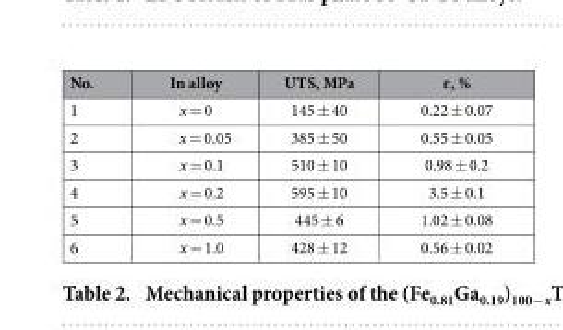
<table><thead><tr><td>No.</td><td>In alloy</td><td>UTS, MPa</td><td>ɛ, %</td></tr></thead><tbody><tr><td>1</td><td>x = 0</td><td>145 ± 40</td><td>0.22 ± 0.07</td></tr><tr><td>2</td><td>x = 0.05</td><td>385 ± 50</td><td>0.55 ± 0.05</td></tr><tr><td>3</td><td>x = 0.1</td><td>510 ± 10</td><td>0.98 ± 0.2</td></tr><tr><td>4</td><td>x = 0.2</td><td>595 ± 10</td><td>3.5 ± 0.1</td></tr><tr><td>5</td><td>x = 0.5</td><td>445 ± 6</td><td>1.02 ± 0.08</td></tr><tr><td>6</td><td>x = 1.0</td><td>428 ± 12</td><td>0.56 ± 0.02</td></tr></tbody></table>